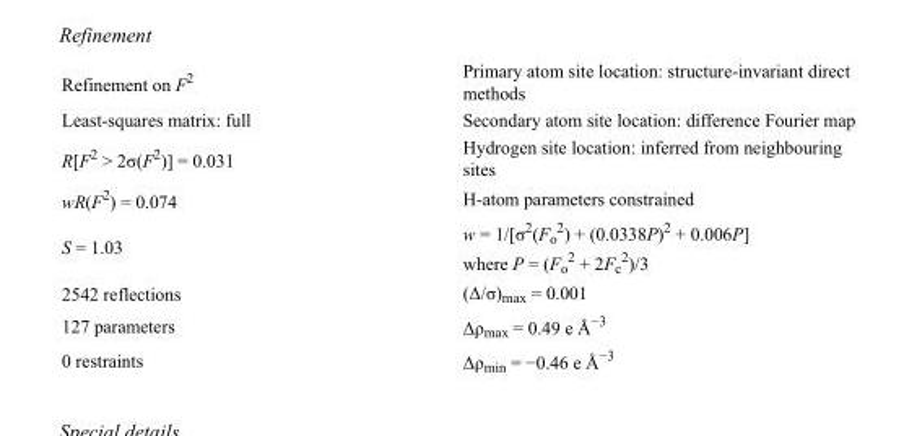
<table><tbody><tr><td>Refinement on F<sup>2</sup></td><td>Primary atom site location: structure-invariant direct methods</td></tr><tr><td>Least-squares matrix: full</td><td>Secondary atom site location: difference Fourier map</td></tr><tr><td>R[F<sup>2</sup> &gt; 2σ(F<sup>2</sup>)] = 0.031</td><td>Hydrogen site location: inferred from neighbouring sites</td></tr><tr><td>wR(F<sup>2</sup>) = 0.074</td><td>H-atom parameters constrained</td></tr><tr><td>S = 1.03</td><td>w = 1/[σ<sup>2</sup>(F<sub>o</sub> <sup>2</sup>) + (0.0338P)<sup>2</sup> + 0.006P] where P = (F<sub>o</sub> <sup>2</sup> + 2F<sub>c</sub> <sup>2</sup>)/3</td></tr><tr><td>2542 reflections</td><td>(Δ/σ)<sub>max</sub> = 0.001</td></tr><tr><td>127 parameters</td><td>Δρ<sub>max</sub> = 0.49 e Å<sup>−3</sup></td></tr><tr><td>0 restraints</td><td>Δρ<sub>min</sub> = −0.46 e Å<sup>−3</sup></td></tr></tbody></table>